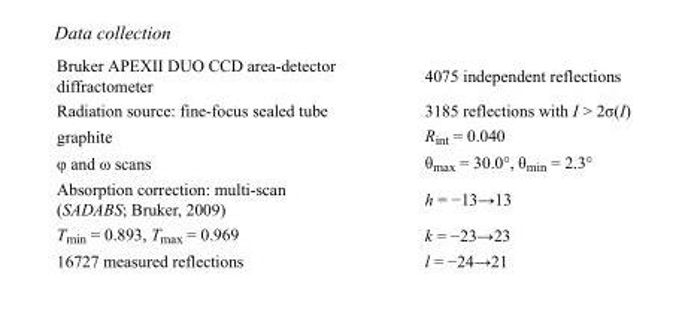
<table><tbody><tr><td>Bruker APEXII DUO CCD area-detector diffractometer</td><td>4075 independent reflections</td></tr><tr><td>Radiation source: fine-focus sealed tube</td><td>3185 reflections with I &gt; 2σ(I)</td></tr><tr><td>graphite</td><td>R<sub>int</sub> = 0.040</td></tr><tr><td>φ and ω scans</td><td>θ<sub>max</sub> = 30.0°, θ<sub>min</sub> = 2.3°</td></tr><tr><td>Absorption correction: multi-scan (SADABS; Bruker, 2009)</td><td>h = −13→13</td></tr><tr><td>T<sub>min</sub> = 0.893, T<sub>max</sub> = 0.969</td><td>k = −23→23</td></tr><tr><td>16727 measured reflections</td><td>l = −24→21</td></tr></tbody></table>